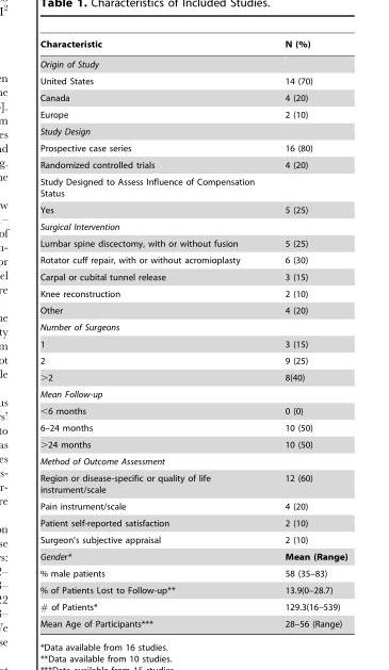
<table><thead><tr><td>Characteristic</td><td>N (%)</td></tr></thead><tbody><tr><td colspan="2">Origin of Study</td></tr><tr><td>United States</td><td>14 (70)</td></tr><tr><td>Canada</td><td>4 (20)</td></tr><tr><td>Europe</td><td>2 (10)</td></tr><tr><td colspan="2">Study Design</td></tr><tr><td>Prospective case series</td><td>16 (80)</td></tr><tr><td>Randomized controlled trials</td><td>4 (20)</td></tr><tr><td colspan="2">Study Designed to Assess Influence of Compensation Status</td></tr><tr><td>Yes</td><td>5 (25)</td></tr><tr><td colspan="2">Surgical Intervention</td></tr><tr><td>Lumbar spine discectomy, with or without fusion</td><td>5 (25)</td></tr><tr><td>Rotator cuff repair, with or without acromioplasty</td><td>6 (30)</td></tr><tr><td>Carpal or cubital tunnel release</td><td>3 (15)</td></tr><tr><td>Knee reconstruction</td><td>2 (10)</td></tr><tr><td>Other</td><td>4 (20)</td></tr><tr><td colspan="2">Number of Surgeons</td></tr><tr><td>1</td><td>3 (15)</td></tr><tr><td>2</td><td>9 (25)</td></tr><tr><td>&gt;2</td><td>8(40)</td></tr><tr><td colspan="2">Mean Follow-up</td></tr><tr><td>&lt;6 months</td><td>0 (0)</td></tr><tr><td>6–24 months</td><td>10 (50)</td></tr><tr><td>&gt;24 months</td><td>10 (50)</td></tr><tr><td colspan="2">Method of Outcome Assessment</td></tr><tr><td>Region or disease-specific or quality of life instrument/scale</td><td>12 (60)</td></tr><tr><td>Pain instrument/scale</td><td>4 (20)</td></tr><tr><td>Patient self-reported satisfaction</td><td>2 (10)</td></tr><tr><td>Surgeon’s subjective appraisal</td><td>2 (10)</td></tr><tr><td>Gender*</td><td>Mean (Range)</td></tr><tr><td>% male patients</td><td>58 (35–83)</td></tr><tr><td>% of Patients Lost to Follow-up**</td><td>13.9(0–28.7)</td></tr><tr><td># of Patients*</td><td>129.3(16–539)</td></tr><tr><td>Mean Age of Participants***</td><td>28–56 (Range)</td></tr></tbody></table>